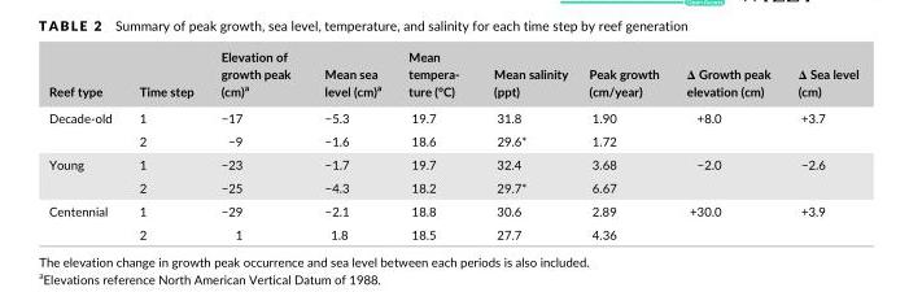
<table><thead><tr><td>Reef type</td><td>Time step</td><td>Elevation of growth peak (cm)<sup>a</sup></td><td>Mean sea level (cm)<sup>a</sup></td><td>Mean tempera- ture (°C)</td><td>Mean salinity (ppt)</td><td>Peak growth (cm/year)</td><td>Δ Growth peak elevation (cm)</td><td>Δ Sea level (cm)</td></tr></thead><tbody><tr><td rowspan="2">Decade- old</td><td>1</td><td>−17</td><td>−5.3</td><td>19.7</td><td>31.8</td><td>1.90</td><td rowspan="2">+8.0</td><td rowspan="2">+3.7</td></tr><tr><td>2</td><td>−9</td><td>−1.6</td><td>18.6</td><td>29.6*</td><td>1.72</td></tr><tr><td rowspan="2">Young</td><td>1</td><td>−23</td><td>−1.7</td><td>19.7</td><td>32.4</td><td>3.68</td><td rowspan="2">−2.0</td><td rowspan="2">−2.6</td></tr><tr><td>2</td><td>−25</td><td>−4.3</td><td>18.2</td><td>29.7*</td><td>6.67</td></tr><tr><td rowspan="2">Centennial</td><td>1</td><td>−29</td><td>−2.1</td><td>18.8</td><td>30.6</td><td>2.89</td><td rowspan="2">+30.0</td><td rowspan="2">+3.9</td></tr><tr><td>2</td><td>1</td><td>1.8</td><td>18.5</td><td>27.7</td><td>4.36</td></tr></tbody></table>